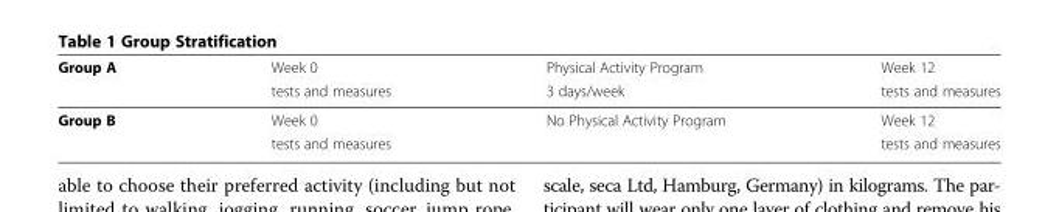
<table><tbody><tr><td rowspan="2">Group A</td><td>Week 0</td><td>Physical Activity Program</td><td>Week 12</td></tr><tr><td>tests and measures</td><td>3 days/week</td><td>tests and measures</td></tr><tr><td rowspan="2">Group B</td><td>Week 0</td><td>No Physical Activity Program</td><td>Week 12</td></tr><tr><td>tests and measures</td><td></td><td>tests and measures</td></tr></tbody></table>